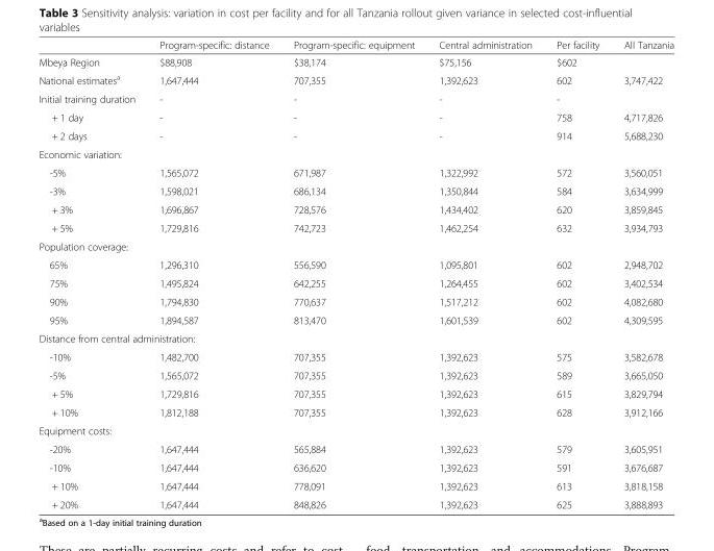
<table><thead><tr><td></td><td>Program-specific: distance</td><td>Program-specific: equipment</td><td>Central administration</td><td>Per facility</td><td>All Tanzania</td></tr></thead><tbody><tr><td>Mbeya Region</td><td>$88,908</td><td>$38,174</td><td>$75,156</td><td>$602</td><td></td></tr><tr><td>National estimates<sup>a</sup></td><td>1,647,444</td><td>707,355</td><td>1,392,623</td><td>602</td><td>3,747,422</td></tr><tr><td>Initial training duration</td><td>-</td><td>-</td><td>-</td><td>-</td><td></td></tr><tr><td>+ 1 day</td><td>-</td><td>-</td><td>-</td><td>758</td><td>4,717,826</td></tr><tr><td>+ 2 days</td><td>-</td><td>-</td><td>-</td><td>914</td><td>5,688,230</td></tr><tr><td colspan="6">Economic variation:</td></tr><tr><td>-5%</td><td>1,565,072</td><td>671,987</td><td>1,322,992</td><td>572</td><td>3,560,051</td></tr><tr><td>-3%</td><td>1,598,021</td><td>686,134</td><td>1,350,844</td><td>584</td><td>3,634,999</td></tr><tr><td>+ 3%</td><td>1,696,867</td><td>728,576</td><td>1,434,402</td><td>620</td><td>3,859,845</td></tr><tr><td>+ 5%</td><td>1,729,816</td><td>742,723</td><td>1,462,254</td><td>632</td><td>3,934,793</td></tr><tr><td colspan="6">Population coverage:</td></tr><tr><td>65%</td><td>1,296,310</td><td>556,590</td><td>1,095,801</td><td>602</td><td>2,948,702</td></tr><tr><td>75%</td><td>1,495,824</td><td>642,255</td><td>1,264,455</td><td>602</td><td>3,402,534</td></tr><tr><td>90%</td><td>1,794,830</td><td>770,637</td><td>1,517,212</td><td>602</td><td>4,082,680</td></tr><tr><td>95%</td><td>1,894,587</td><td>813,470</td><td>1,601,539</td><td>602</td><td>4,309,595</td></tr><tr><td colspan="6">Distance from central administration:</td></tr><tr><td>-10%</td><td>1,482,700</td><td>707,355</td><td>1,392,623</td><td>575</td><td>3,582,678</td></tr><tr><td>-5%</td><td>1,565,072</td><td>707,355</td><td>1,392,623</td><td>589</td><td>3,665,050</td></tr><tr><td>+ 5%</td><td>1,729,816</td><td>707,355</td><td>1,392,623</td><td>615</td><td>3,829,794</td></tr><tr><td>+ 10%</td><td>1,812,188</td><td>707,355</td><td>1,392,623</td><td>628</td><td>3,912,166</td></tr><tr><td colspan="6">Equipment costs:</td></tr><tr><td>-20%</td><td>1,647,444</td><td>565,884</td><td>1,392,623</td><td>579</td><td>3,605,951</td></tr><tr><td>-10%</td><td>1,647,444</td><td>636,620</td><td>1,392,623</td><td>591</td><td>3,676,687</td></tr><tr><td>+ 10%</td><td>1,647,444</td><td>778,091</td><td>1,392,623</td><td>613</td><td>3,818,158</td></tr><tr><td>+ 20%</td><td>1,647,444</td><td>848,826</td><td>1,392,623</td><td>625</td><td>3,888,893</td></tr></tbody></table>